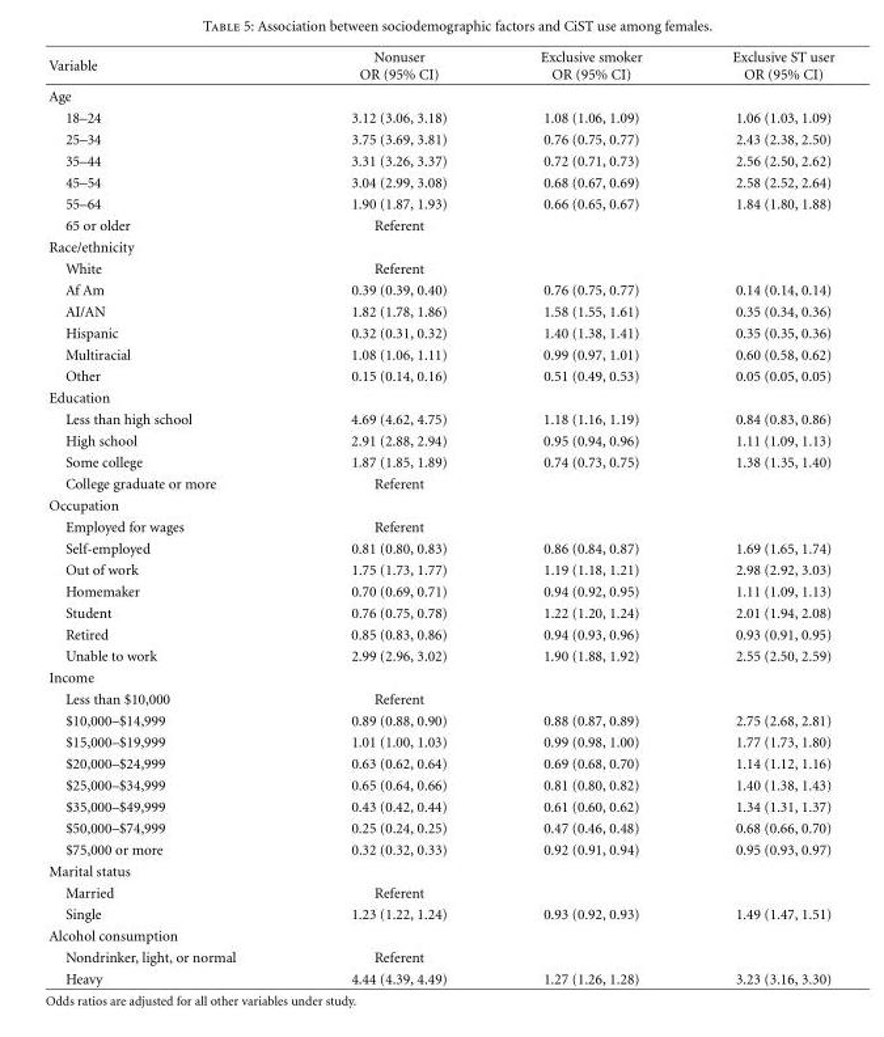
<table><thead><tr><td>Variable</td><td>Nonuser OR (95% CI)</td><td>Exclusive smoker OR (95% CI)</td><td>Exclusive ST user OR (95% CI)</td></tr></thead><tbody><tr><td colspan="4">Age</td></tr><tr><td>18–24</td><td>3.12 (3.06, 3.18)</td><td>1.08 (1.06, 1.09)</td><td>1.06 (1.03, 1.09)</td></tr><tr><td>25–34</td><td>3.75 (3.69, 3.81)</td><td>0.76 (0.75, 0.77)</td><td>2.43 (2.38, 2.50)</td></tr><tr><td>35–44</td><td>3.31 (3.26, 3.37)</td><td>0.72 (0.71, 0.73)</td><td>2.56 (2.50, 2.62)</td></tr><tr><td>45–54</td><td>3.04 (2.99, 3.08)</td><td>0.68 (0.67, 0.69)</td><td>2.58 (2.52, 2.64)</td></tr><tr><td>55–64</td><td>1.90 (1.87, 1.93)</td><td>0.66 (0.65, 0.67)</td><td>1.84 (1.80, 1.88)</td></tr><tr><td>65 or older</td><td>Referent</td><td></td><td></td></tr><tr><td colspan="4">Race/ethnicity</td></tr><tr><td>White</td><td>Referent</td><td></td><td></td></tr><tr><td>Af Am</td><td>0.39 (0.39, 0.40)</td><td>0.76 (0.75, 0.77)</td><td>0.14 (0.14, 0.14)</td></tr><tr><td>AI/AN</td><td>1.82 (1.78, 1.86)</td><td>1.58 (1.55, 1.61)</td><td>0.35 (0.34, 0.36)</td></tr><tr><td>Hispanic</td><td>0.32 (0.31, 0.32)</td><td>1.40 (1.38, 1.41)</td><td>0.35 (0.35, 0.36)</td></tr><tr><td>Multiracial</td><td>1.08 (1.06, 1.11)</td><td>0.99 (0.97, 1.01)</td><td>0.60 (0.58, 0.62)</td></tr><tr><td>Other</td><td>0.15 (0.14, 0.16)</td><td>0.51 (0.49, 0.53)</td><td>0.05 (0.05, 0.05)</td></tr><tr><td colspan="4">Education</td></tr><tr><td>Less than high school</td><td>4.69 (4.62, 4.75)</td><td>1.18 (1.16, 1.19)</td><td>0.84 (0.83, 0.86)</td></tr><tr><td>High school</td><td>2.91 (2.88, 2.94)</td><td>0.95 (0.94, 0.96)</td><td>1.11 (1.09, 1.13)</td></tr><tr><td>Some college</td><td>1.87 (1.85, 1.89)</td><td>0.74 (0.73, 0.75)</td><td>1.38 (1.35, 1.40)</td></tr><tr><td>College graduate or more</td><td>Referent</td><td></td><td></td></tr><tr><td colspan="4">Occupation</td></tr><tr><td>Employed for wages</td><td>Referent</td><td></td><td></td></tr><tr><td>Self-employed</td><td>0.81 (0.80, 0.83)</td><td>0.86 (0.84, 0.87)</td><td>1.69 (1.65, 1.74)</td></tr><tr><td>Out of work</td><td>1.75 (1.73, 1.77)</td><td>1.19 (1.18, 1.21)</td><td>2.98 (2.92, 3.03)</td></tr><tr><td>Homemaker</td><td>0.70 (0.69, 0.71)</td><td>0.94 (0.92, 0.95)</td><td>1.11 (1.09, 1.13)</td></tr><tr><td>Student</td><td>0.76 (0.75, 0.78)</td><td>1.22 (1.20, 1.24)</td><td>2.01 (1.94, 2.08)</td></tr><tr><td>Retired</td><td>0.85 (0.83, 0.86)</td><td>0.94 (0.93, 0.96)</td><td>0.93 (0.91, 0.95)</td></tr><tr><td>Unable to work</td><td>2.99 (2.96, 3.02)</td><td>1.90 (1.88, 1.92)</td><td>2.55 (2.50, 2.59)</td></tr><tr><td colspan="4">Income</td></tr><tr><td>Less than $10,000</td><td>Referent</td><td></td><td></td></tr><tr><td>$10,000–$14,999</td><td>0.89 (0.88, 0.90)</td><td>0.88 (0.87, 0.89)</td><td>2.75 (2.68, 2.81)</td></tr><tr><td>$15,000–$19,999</td><td>1.01 (1.00, 1.03)</td><td>0.99 (0.98, 1.00)</td><td>1.77 (1.73, 1.80)</td></tr><tr><td>$20,000–$24,999</td><td>0.63 (0.62, 0.64)</td><td>0.69 (0.68, 0.70)</td><td>1.14 (1.12, 1.16)</td></tr><tr><td>$25,000–$34,999</td><td>0.65 (0.64, 0.66)</td><td>0.81 (0.80, 0.82)</td><td>1.40 (1.38, 1.43)</td></tr><tr><td>$35,000–$49,999</td><td>0.43 (0.42, 0.44)</td><td>0.61 (0.60, 0.62)</td><td>1.34 (1.31, 1.37)</td></tr><tr><td>$50,000–$74,999</td><td>0.25 (0.24, 0.25)</td><td>0.47 (0.46, 0.48)</td><td>0.68 (0.66, 0.70)</td></tr><tr><td>$75,000 or more</td><td>0.32 (0.32, 0.33)</td><td>0.92 (0.91, 0.94)</td><td>0.95 (0.93, 0.97)</td></tr><tr><td colspan="4">Marital status</td></tr><tr><td>Married</td><td>Referent</td><td></td><td></td></tr><tr><td>Single</td><td>1.23 (1.22, 1.24)</td><td>0.93 (0.92, 0.93)</td><td>1.49 (1.47, 1.51)</td></tr><tr><td colspan="4">Alcohol consumption</td></tr><tr><td>Nondrinker, light, or normal</td><td>Referent</td><td></td><td></td></tr><tr><td>Heavy</td><td>4.44 (4.39, 4.49)</td><td>1.27 (1.26, 1.28)</td><td>3.23 (3.16, 3.30)</td></tr></tbody></table>